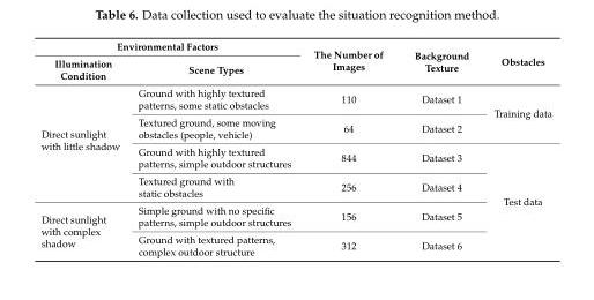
<table><thead><tr><td colspan="2">Environmental Factors</td><td rowspan="2">The Number of Images</td><td rowspan="2">Background Texture</td><td rowspan="2">Obstacles</td></tr><tr><td>Illumination Condition</td><td>Scene Types</td></tr></thead><tbody><tr><td rowspan="4">Direct sunlight with little shadow</td><td>Ground with highly textured patterns, some static obstacles</td><td>110</td><td>Dataset 1</td><td rowspan="2">Training data</td></tr><tr><td>Textured ground, some moving obstacles (people, vehicle)</td><td>64</td><td>Dataset 2</td></tr><tr><td>Ground with highly textured patterns, simple outdoor structures</td><td>844</td><td>Dataset 3</td><td rowspan="4">Test data</td></tr><tr><td>Textured ground with static obstacles</td><td>256</td><td>Dataset 4</td></tr><tr><td rowspan="2">Direct sunlight with complex shadow</td><td>Simple ground with no specific patterns, simple outdoor structures</td><td>156</td><td>Dataset 5</td></tr><tr><td>Ground with textured patterns, complex outdoor structure</td><td>312</td><td>Dataset 6</td></tr></tbody></table>